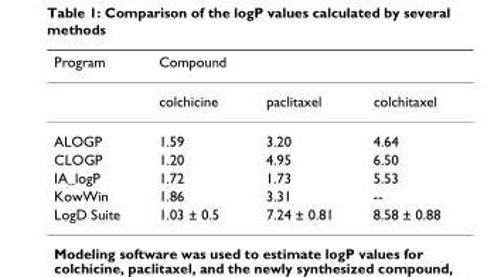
<table><thead><tr><td>Program</td><td>Compound</td><td></td><td></td></tr></thead><tbody><tr><td></td><td>colchicine</td><td>paclitaxel</td><td>colchitaxel</td></tr><tr><td>ALOGP</td><td>1.59</td><td>3.20</td><td>4.64</td></tr><tr><td>CLOGP</td><td>1.20</td><td>4.95</td><td>6.50</td></tr><tr><td>IA_logP</td><td>1.72</td><td>1.73</td><td>5.53</td></tr><tr><td>KowWin</td><td>1.86</td><td>3.31</td><td>--</td></tr><tr><td>LogD Suite</td><td>1.03 ± 0.5</td><td>7.24 ± 0.81</td><td>8.58 ± 0.88</td></tr></tbody></table>